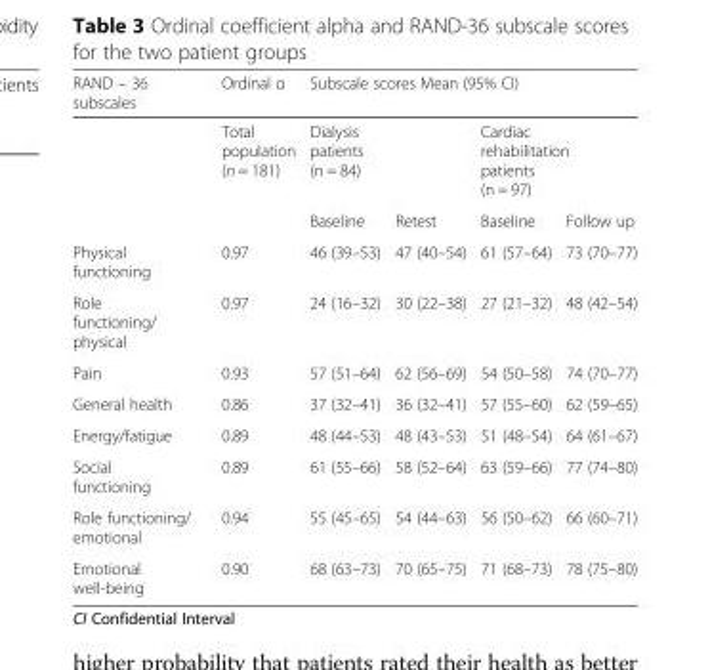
<table><thead><tr><td rowspan="3">RAND – 36 subscales</td><td rowspan="3">Ordinal α Total population (n = 181)</td><td colspan="4">Subscale scores Mean (95% CI)</td></tr><tr><td colspan="2">Dialysis patients (n = 84)</td><td colspan="2">Cardiac rehabilitation patients (n = 97)</td></tr><tr><td>Baseline</td><td>Retest</td><td>Baseline</td><td>Follow up</td></tr></thead><tbody><tr><td>Physical functioning</td><td>0.97</td><td>46 (39–53)</td><td>47 (40–54)</td><td>61 (57–64)</td><td>73 (70–77)</td></tr><tr><td>Role functioning/ physical</td><td>0.97</td><td>24 (16–32)</td><td>30 (22–38)</td><td>27 (21–32)</td><td>48 (42–54)</td></tr><tr><td>Pain</td><td>0.93</td><td>57 (51–64)</td><td>62 (56–69)</td><td>54 (50–58)</td><td>74 (70–77)</td></tr><tr><td>General health</td><td>0.86</td><td>37 (32–41)</td><td>36 (32–41)</td><td>57 (55–60)</td><td>62 (59–65)</td></tr><tr><td>Energy/fatigue</td><td>0.89</td><td>48 (44–53)</td><td>48 (43–53)</td><td>51 (48–54)</td><td>64 (61–67)</td></tr><tr><td>Social functioning</td><td>0.89</td><td>61 (55–66)</td><td>58 (52–64)</td><td>63 (59–66)</td><td>77 (74–80)</td></tr><tr><td>Role functioning/ emotional</td><td>0.94</td><td>55 (45–65)</td><td>54 (44–63)</td><td>56 (50–62)</td><td>66 (60–71)</td></tr><tr><td>Emotional well-being</td><td>0.90</td><td>68 (63–73)</td><td>70 (65–75)</td><td>71 (68–73)</td><td>78 (75–80)</td></tr></tbody></table>